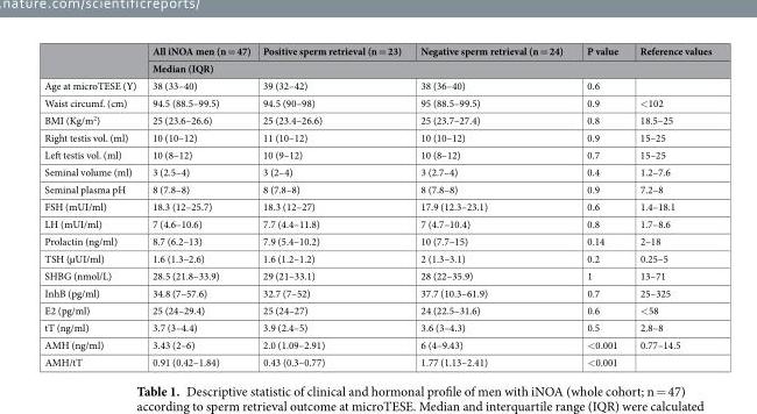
<table><thead><tr><td rowspan="2"></td><td>All iNOA men (n = 47)</td><td>Positive sperm retrieval (n = 23)</td><td>Negative sperm retrieval (n = 24)</td><td>P value</td><td>Reference values</td></tr><tr><td colspan="5">Median (IQR)</td></tr></thead><tbody><tr><td>Age at microTESE (Y)</td><td>38 (33–40)</td><td>39 (32–42)</td><td>38 (36–40)</td><td>0.6</td><td></td></tr><tr><td>Waist circumf. (cm)</td><td>94.5 (88.5–99.5)</td><td>94.5 (90–98)</td><td>95 (88.5–99.5)</td><td>0.9</td><td>&lt;102</td></tr><tr><td>BMI (Kg/m<sup>2</sup>)</td><td>25 (23.6–26.6)</td><td>25 (23.4–26.6)</td><td>25 (23.7–27.4)</td><td>0.8</td><td>18.5–25</td></tr><tr><td>Right testis vol. (ml)</td><td>10 (10–12)</td><td>11 (10–12)</td><td>10 (10–12)</td><td>0.9</td><td>15–25</td></tr><tr><td>Left testis vol. (ml)</td><td>10 (8–12)</td><td>10 (9–12)</td><td>10 (8–12)</td><td>0.7</td><td>15–25</td></tr><tr><td>Seminal volume (ml)</td><td>3 (2.5–4)</td><td>3 (2–4)</td><td>3 (2.7–4)</td><td>0.4</td><td>1.2–7.6</td></tr><tr><td>Seminal plasma pH</td><td>8 (7.8–8)</td><td>8 (7.8–8)</td><td>8 (7.8–8)</td><td>0.9</td><td>7.2–8</td></tr><tr><td>FSH (mUI/ml)</td><td>18.3 (12–25.7)</td><td>18.3 (12–27)</td><td>17.9 (12.3–23.1)</td><td>0.6</td><td>1.4–18.1</td></tr><tr><td>LH (mUI/ml)</td><td>7 (4.6–10.6)</td><td>7.7 (4.4–11.8)</td><td>7 (4.7–10.4)</td><td>0.8</td><td>1.7–8.6</td></tr><tr><td>Prolactin (ng/ml)</td><td>8.7 (6.2–13)</td><td>7.9 (5.4–10.2)</td><td>10 (7.7–15)</td><td>0.14</td><td>2–18</td></tr><tr><td>TSH (µUI/ml)</td><td>1.6 (1.3–2.6)</td><td>1.6 (1.2–1.2)</td><td>2 (1.3–3.1)</td><td>0.2</td><td>0.25–5</td></tr><tr><td>SHBG (nmol/L)</td><td>28.5 (21.8–33.9)</td><td>29 (21–33.1)</td><td>28 (22–35.9)</td><td>1</td><td>13–71</td></tr><tr><td>InhB (pg/ml)</td><td>34.8 (7–57.6)</td><td>32.7 (7–52)</td><td>37.7 (10.3–61.9)</td><td>0.7</td><td>25–325</td></tr><tr><td>E2 (pg/ml)</td><td>25 (24–29.4)</td><td>25 (24–27)</td><td>24 (22.5–31.6)</td><td>0.6</td><td>&lt;58</td></tr><tr><td>tT (ng/ml)</td><td>3.7 (3–4.4)</td><td>3.9 (2.4–5)</td><td>3.6 (3–4.3)</td><td>0.5</td><td>2.8–8</td></tr><tr><td>AMH (ng/ml)</td><td>3.43 (2–6)</td><td>2.0 (1.09–2.91)</td><td>6 (4–9.43)</td><td>&lt;0.001</td><td>0.77–14.5</td></tr><tr><td>AMH/tT</td><td>0.91 (0.42–1.84)</td><td>0.43 (0.3–0.77)</td><td>1.77 (1.13–2.41)</td><td>&lt;0.001</td><td></td></tr></tbody></table>